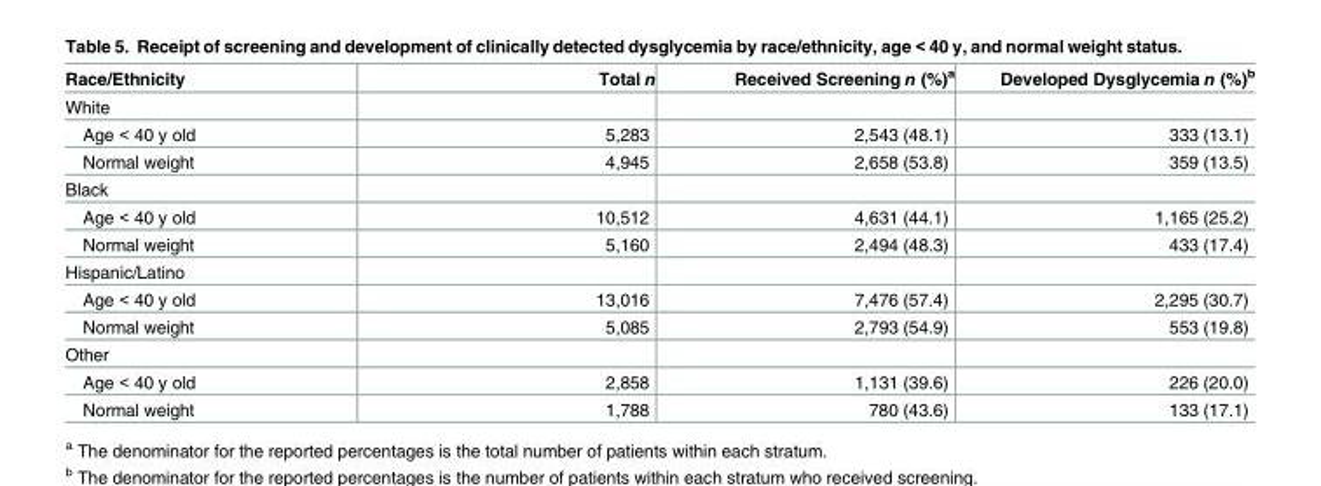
<table><thead><tr><td>Race/Ethnicity</td><td>Total n</td><td>Received Screening n (%)<sup>a</sup></td><td>Developed Dysglycemia n (%)<sup>b</sup></td></tr></thead><tbody><tr><td colspan="4">White</td></tr><tr><td>Age &lt; 40 y old</td><td>5,283</td><td>2,543 (48.1)</td><td>333 (13.1)</td></tr><tr><td>Normal weight</td><td>4,945</td><td>2,658 (53.8)</td><td>359 (13.5)</td></tr><tr><td colspan="4">Black</td></tr><tr><td>Age &lt; 40 y old</td><td>10,512</td><td>4,631 (44.1)</td><td>1,165 (25.2)</td></tr><tr><td>Normal weight</td><td>5,160</td><td>2,494 (48.3)</td><td>433 (17.4)</td></tr><tr><td colspan="4">Hispanic/Latino</td></tr><tr><td>Age &lt; 40 y old</td><td>13,016</td><td>7,476 (57.4)</td><td>2,295 (30.7)</td></tr><tr><td>Normal weight</td><td>5,085</td><td>2,793 (54.9)</td><td>553 (19.8)</td></tr><tr><td colspan="4">Other</td></tr><tr><td>Age &lt; 40 y old</td><td>2,858</td><td>1,131 (39.6)</td><td>226 (20.0)</td></tr><tr><td>Normal weight</td><td>1,788</td><td>780 (43.6)</td><td>133 (17.1)</td></tr></tbody></table>